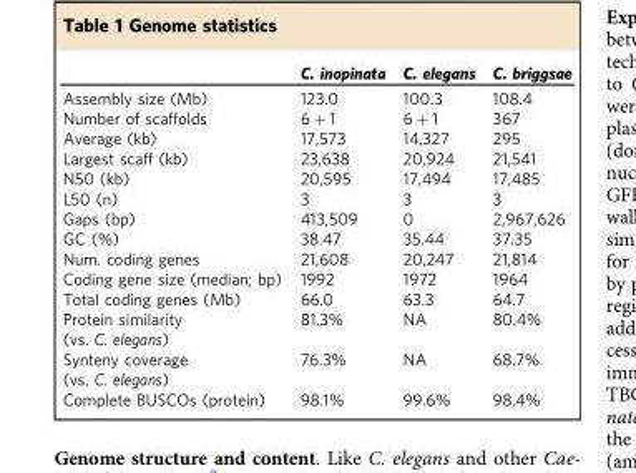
<table><thead><tr><td></td><td>C. inopinata</td><td>C. elegans</td><td>C. briggsae</td></tr></thead><tbody><tr><td>Assembly size (Mb)</td><td>123.0</td><td>100.3</td><td>108.4</td></tr><tr><td>Number of scaffolds</td><td>6 + 1</td><td>6 + 1</td><td>367</td></tr><tr><td>Average (kb)</td><td>17,573</td><td>14,327</td><td>295</td></tr><tr><td>Largest scaff (kb)</td><td>23,638</td><td>20,924</td><td>21,541</td></tr><tr><td>N50 (kb)</td><td>20,595</td><td>17,494</td><td>17,485</td></tr><tr><td>L50 (n)</td><td>3</td><td>3</td><td>3</td></tr><tr><td>Gaps (bp)</td><td>413,509</td><td>0</td><td>2,967,626</td></tr><tr><td>GC (%)</td><td>38.47</td><td>35.44</td><td>37.35</td></tr><tr><td>Num. coding genes</td><td>21,608</td><td>20,247</td><td>21,814</td></tr><tr><td>Coding gene size (median; bp)</td><td>1992</td><td>1972</td><td>1964</td></tr><tr><td>Total coding genes (Mb)</td><td>66.0</td><td>63.3</td><td>64.7</td></tr><tr><td>Protein similarity (vs. C. elegans)</td><td>81.3%</td><td>NA</td><td>80.4%</td></tr><tr><td>Synteny coverage (vs. C. elegans)</td><td>76.3%</td><td>NA</td><td>68.7%</td></tr><tr><td>Complete BUSCOs (protein)</td><td>98.1%</td><td>99.6%</td><td>98.4%</td></tr></tbody></table>